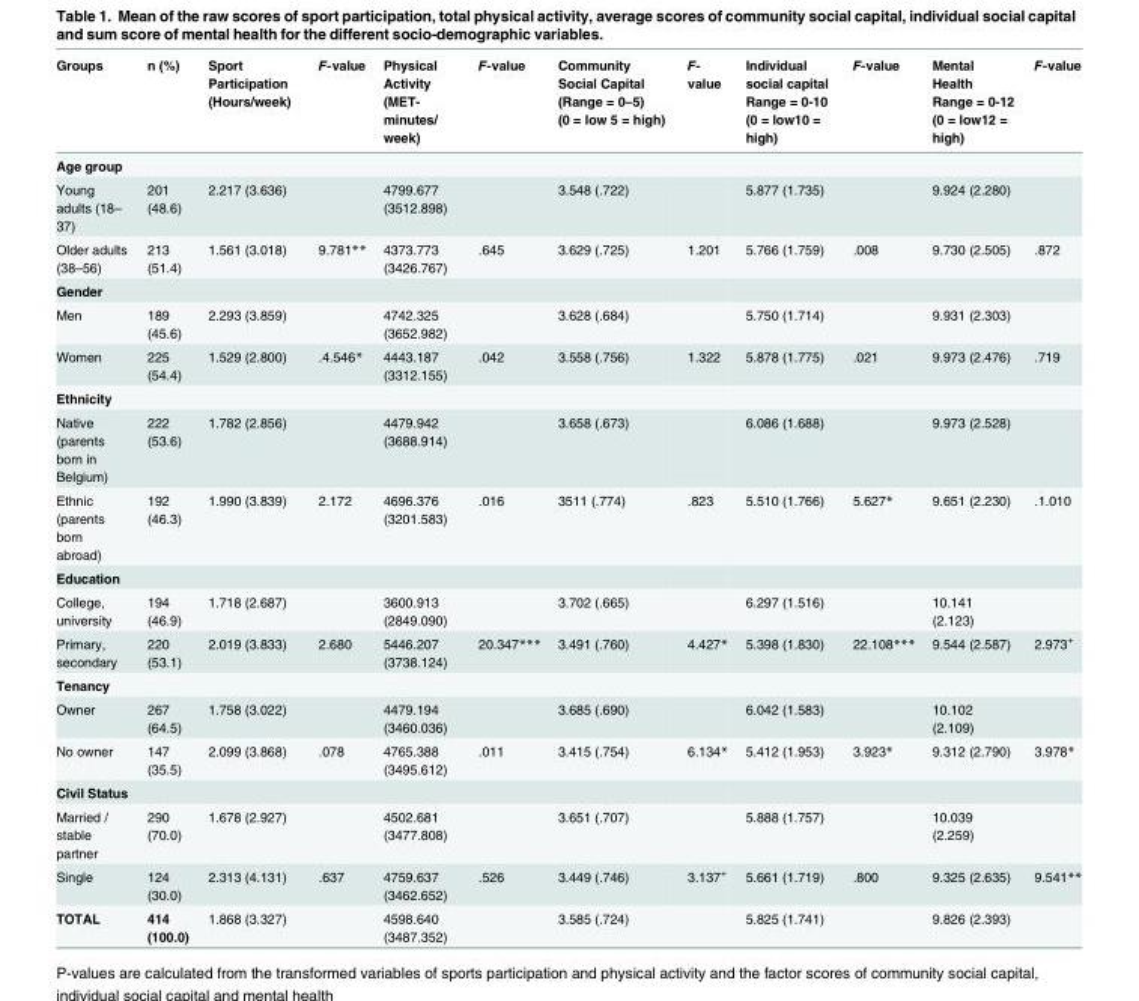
<table><thead><tr><td>Groups</td><td>n (%)</td><td>Sport Participation (Hours/week)</td><td>F-value</td><td>Physical Activity (MET- minutes/ week)</td><td>F-value</td><td>Community Social Capital (Range = 0–5) (0 = low 5 = high)</td><td>F- value</td><td>Individual social capital Range = 0-10 (0 = low10 = high)</td><td>F-value</td><td>Mental Health Range = 0-12 (0 = low12 = high)</td><td>F-value</td></tr></thead><tbody><tr><td colspan="12">Age group</td></tr><tr><td>Young adults (18– 37)</td><td>201 (48.6)</td><td>2.217 (3.636)</td><td></td><td>4799.677 (3512.898)</td><td></td><td>3.548 (.722)</td><td></td><td>5.877 (1.735)</td><td></td><td>9.924 (2.280)</td><td></td></tr><tr><td>Older adults (38–56)</td><td>213 (51.4)</td><td>1.561 (3.018)</td><td>9.781**</td><td>4373.773 (3426.767)</td><td>.645</td><td>3.629 (.725)</td><td>1.201</td><td>5.766 (1.759)</td><td>.008</td><td>9.730 (2.505)</td><td>.872</td></tr><tr><td colspan="12">Gender</td></tr><tr><td>Men</td><td>189 (45.6)</td><td>2.293 (3.859)</td><td></td><td>4742.325 (3652.982)</td><td></td><td>3.628 (.684)</td><td></td><td>5.750 (1.714)</td><td></td><td>9.931 (2.303)</td><td></td></tr><tr><td>Women</td><td>225 (54.4)</td><td>1.529 (2.800)</td><td>.4.546*</td><td>4443.187 (3312.155)</td><td>.042</td><td>3.558 (.756)</td><td>1.322</td><td>5.878 (1.775)</td><td>.021</td><td>9.973 (2.476)</td><td>.719</td></tr><tr><td colspan="12">Ethnicity</td></tr><tr><td>Native (parents born in Belgium)</td><td>222 (53.6)</td><td>1.782 (2.856)</td><td></td><td>4479.942 (3688.914)</td><td></td><td>3.658 (.673)</td><td></td><td>6.086 (1.688)</td><td></td><td>9.973 (2.528)</td><td></td></tr><tr><td>Ethnic (parents born abroad)</td><td>192 (46.3)</td><td>1.990 (3.839)</td><td>2.172</td><td>4696.376 (3201.583)</td><td>.016</td><td>3511 (.774)</td><td>.823</td><td>5.510 (1.766)</td><td>5.627*</td><td>9.651 (2.230)</td><td>.1.010</td></tr><tr><td colspan="12">Education</td></tr><tr><td>College, university</td><td>194 (46.9)</td><td>1.718 (2.687)</td><td></td><td>3600.913 (2849.090)</td><td></td><td>3.702 (.665)</td><td></td><td>6.297 (1.516)</td><td></td><td>10.141 (2.123)</td><td></td></tr><tr><td>Primary, secondary</td><td>220 (53.1)</td><td>2.019 (3.833)</td><td>2.680</td><td>5446.207 (3738.124)</td><td>20.347***</td><td>3.491 (.760)</td><td>4.427*</td><td>5.398 (1.830)</td><td>22.108***</td><td>9.544 (2.587)</td><td>2.973<sup>+</sup></td></tr><tr><td colspan="12">Tenancy</td></tr><tr><td>Owner</td><td>267 (64.5)</td><td>1.758 (3.022)</td><td></td><td>4479.194 (3460.036)</td><td></td><td>3.685 (.690)</td><td></td><td>6.042 (1.583)</td><td></td><td>10.102 (2.109)</td><td></td></tr><tr><td>No owner</td><td>147 (35.5)</td><td>2.099 (3.868)</td><td>.078</td><td>4765.388 (3495.612)</td><td>.011</td><td>3.415 (.754)</td><td>6.134*</td><td>5.412 (1.953)</td><td>3.923*</td><td>9.312 (2.790)</td><td>3.978*</td></tr><tr><td colspan="12">Civil Status</td></tr><tr><td>Married / stable partner</td><td>290 (70.0)</td><td>1.678 (2.927)</td><td></td><td>4502.681 (3477.808)</td><td></td><td>3.651 (.707)</td><td></td><td>5.888 (1.757)</td><td></td><td>10.039 (2.259)</td><td></td></tr><tr><td>Single</td><td>124 (30.0)</td><td>2.313 (4.131)</td><td>.637</td><td>4759.637 (3462.652)</td><td>.526</td><td>3.449 (.746)</td><td>3.137<sup>+</sup></td><td>5.661 (1.719)</td><td>.800</td><td>9.325 (2.635)</td><td>9.541**</td></tr><tr><td>TOTAL</td><td>414 (100.0)</td><td>1.868 (3.327)</td><td></td><td>4598.640 (3487.352)</td><td></td><td>3.585 (.724)</td><td></td><td>5.825 (1.741)</td><td></td><td>9.826 (2.393)</td><td></td></tr></tbody></table>